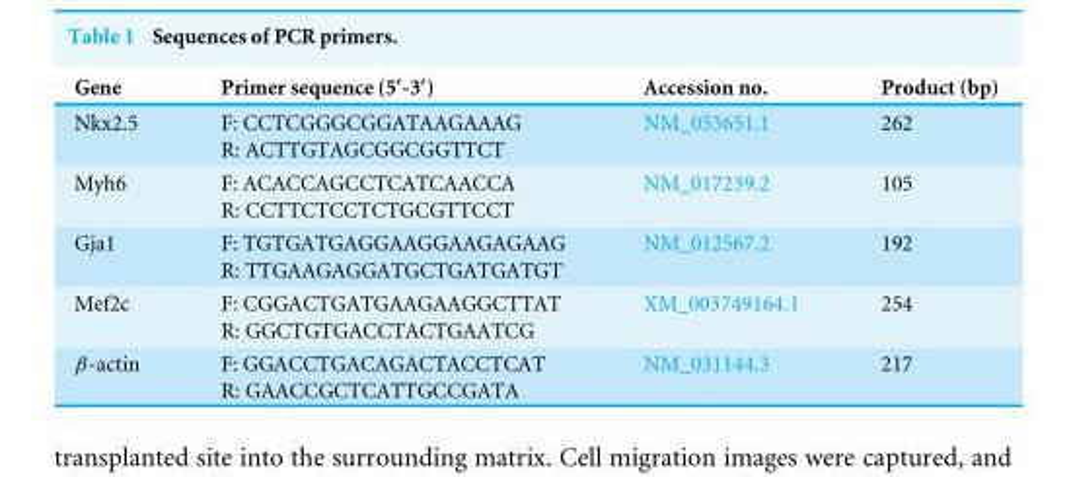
<table><thead><tr><td>Gene</td><td>Primer sequence (5′-3′)</td><td>Accession no.</td><td>Product (bp)</td></tr></thead><tbody><tr><td>Nkx2.5</td><td>F: CCTCGGGCGGATAAGAAAG R: ACTTGTAGCGGCGGTTCT</td><td>NM_053651.1</td><td>262</td></tr><tr><td>Myh6</td><td>F: ACACCAGCCTCATCAACCA R: CCTTCTCCTCTGCGTTCCT</td><td>NM_017239.2</td><td>105</td></tr><tr><td>Gja1</td><td>F: TGTGATGAGGAAGGAAGAGAAG R: TTGAAGAGGATGCTGATGATGT</td><td>NM_012567.2</td><td>192</td></tr><tr><td>Mef2c</td><td>F: CGGACTGATGAAGAAGGCTTAT R: GGCTGTGACCTACTGAATCG</td><td>XM_003749164.1</td><td>254</td></tr><tr><td>β-actin</td><td>F: GGACCTGACAGACTACCTCAT R: GAACCGCTCATTGCCGATA</td><td>NM_031144.3</td><td>217</td></tr></tbody></table>